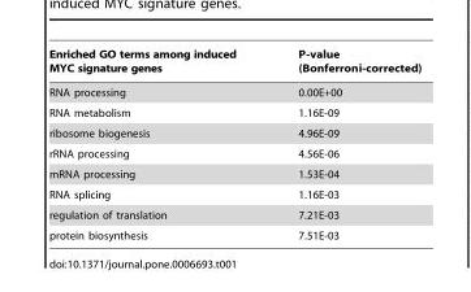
<table><thead><tr><td>Enriched GO terms among induced MYC signature genes</td><td>P-value (Bonferroni-corrected)</td></tr></thead><tbody><tr><td>RNA processing</td><td>0.00E+00</td></tr><tr><td>RNA metabolism</td><td>1.16E-09</td></tr><tr><td>ribosome biogenesis</td><td>4.96E-09</td></tr><tr><td>rRNA processing</td><td>4.56E-06</td></tr><tr><td>mRNA processing</td><td>1.53E-04</td></tr><tr><td>RNA splicing</td><td>1.16E-03</td></tr><tr><td>regulation of translation</td><td>7.21E-03</td></tr><tr><td>protein biosynthesis</td><td>7.51E-03</td></tr></tbody></table>